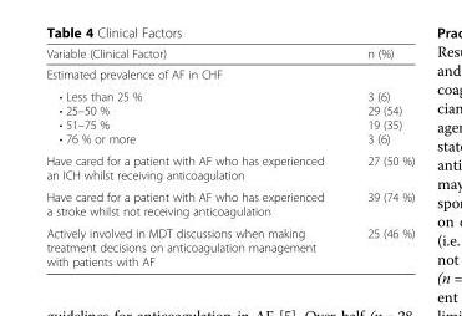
<table><thead><tr><td>Variable (Clinical Factor)</td><td>n (%)</td></tr></thead><tbody><tr><td colspan="2">Estimated prevalence of AF in CHF</td></tr><tr><td>• Less than 25 % • 25–50 % • 51–75 % • 76 % or more</td><td>3 (6) 29 (54) 19 (35) 3 (6)</td></tr><tr><td>Have cared for a patient with AF who has experienced an ICH whilst receiving anticoagulation</td><td>27 (50 %)</td></tr><tr><td>Have cared for a patient with AF who has experienced a stroke whilst not receiving anticoagulation</td><td>39 (74 %)</td></tr><tr><td>Actively involved in MDT discussions when making treatment decisions on anticoagulation management with patients with AF</td><td>25 (46 %)</td></tr></tbody></table>